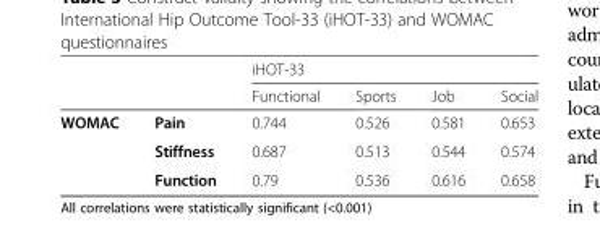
<table><thead><tr><td rowspan="2"></td><td rowspan="2"></td><td colspan="4">iHOT-33</td></tr><tr><td>Functional</td><td>Sports</td><td>Job</td><td>Social</td></tr></thead><tbody><tr><td rowspan="3">WOMAC</td><td>Pain</td><td>0.744</td><td>0.526</td><td>0.581</td><td>0.653</td></tr><tr><td>Stiffness</td><td>0.687</td><td>0.513</td><td>0.544</td><td>0.574</td></tr><tr><td>Function</td><td>0.79</td><td>0.536</td><td>0.616</td><td>0.658</td></tr></tbody></table>